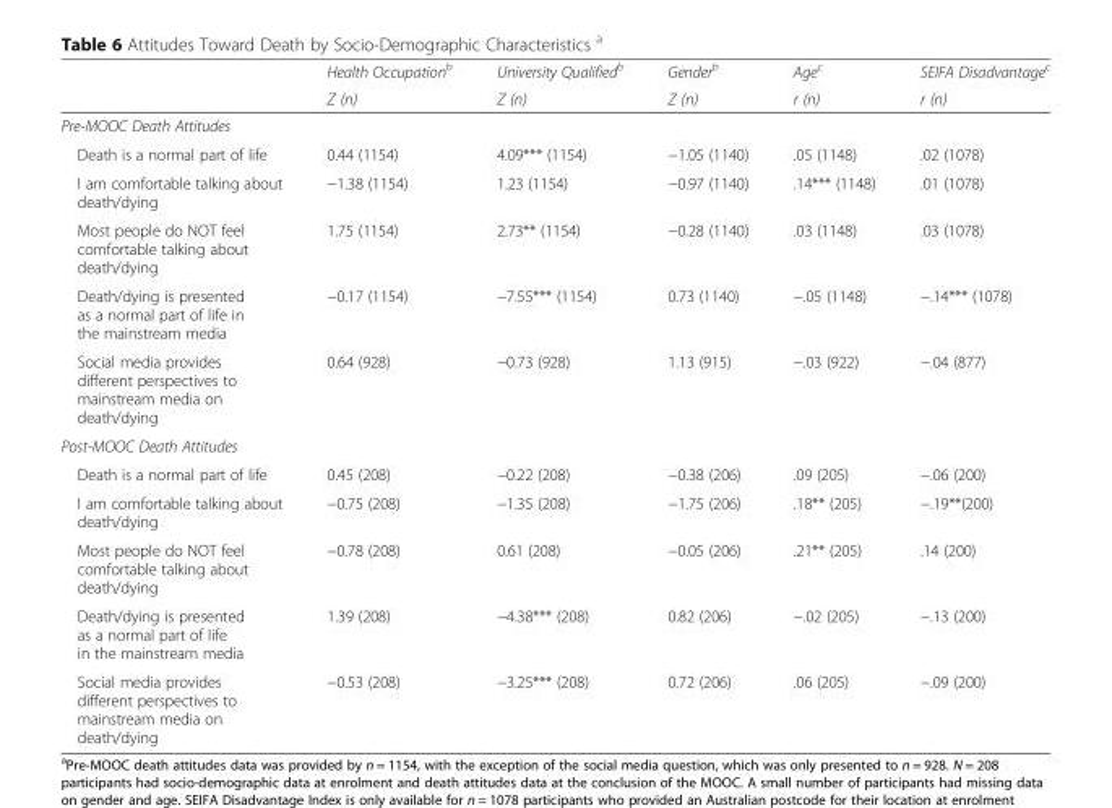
<table><thead><tr><td rowspan="2"></td><td rowspan="2">Health Occupation<sup>b</sup> Z (n)</td><td rowspan="2">University Qualified<sup>b</sup> Z (n)</td><td rowspan="2">Gender<sup>b</sup> Z (n)</td><td rowspan="2">Age<sup>c</sup> r (n)</td><td rowspan="2">SEIFA Disadvantage<sup>c</sup> r (n)</td></tr><tr></tr></thead><tbody><tr><td colspan="6">Pre-MOOC Death Attitudes</td></tr><tr><td>Death is a normal part of life</td><td>0.44 (1154)</td><td>4.09*** (1154)</td><td>−1.05 (1140)</td><td>.05 (1148)</td><td>.02 (1078)</td></tr><tr><td>I am comfortable talking about death/dying</td><td>−1.38 (1154)</td><td>1.23 (1154)</td><td>−0.97 (1140)</td><td>.14*** (1148)</td><td>.01 (1078)</td></tr><tr><td>Most people do NOT feel comfortable talking about death/dying</td><td>1.75 (1154)</td><td>2.73** (1154)</td><td>−0.28 (1140)</td><td>.03 (1148)</td><td>.03 (1078)</td></tr><tr><td>Death/dying is presented as a normal part of life in the mainstream media</td><td>−0.17 (1154)</td><td>−7.55*** (1154)</td><td>0.73 (1140)</td><td>−.05 (1148)</td><td>−.14*** (1078)</td></tr><tr><td>Social media provides different perspectives to mainstream media on death/dying</td><td>0.64 (928)</td><td>−0.73 (928)</td><td>1.13 (915)</td><td>−.03 (922)</td><td>−.04 (877)</td></tr><tr><td colspan="6">Post-MOOC Death Attitudes</td></tr><tr><td>Death is a normal part of life</td><td>0.45 (208)</td><td>−0.22 (208)</td><td>−0.38 (206)</td><td>.09 (205)</td><td>−.06 (200)</td></tr><tr><td>I am comfortable talking about death/dying</td><td>−0.75 (208)</td><td>−1.35 (208)</td><td>−1.75 (206)</td><td>.18** (205)</td><td>−.19**(200)</td></tr><tr><td>Most people do NOT feel comfortable talking about death/dying</td><td>−0.78 (208)</td><td>0.61 (208)</td><td>−0.05 (206)</td><td>.21** (205)</td><td>.14 (200)</td></tr><tr><td>Death/dying is presented as a normal part of life in the mainstream media</td><td>1.39 (208)</td><td>−4.38*** (208)</td><td>0.82 (206)</td><td>−.02 (205)</td><td>−.13 (200)</td></tr><tr><td>Social media provides different perspectives to mainstream media on death/dying</td><td>−0.53 (208)</td><td>−3.25*** (208)</td><td>0.72 (206)</td><td>.06 (205)</td><td>−.09 (200)</td></tr></tbody></table>